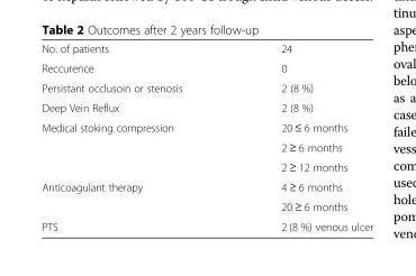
<table><tbody><tr><td>No. of patients</td><td>24</td></tr><tr><td>Reccurence</td><td>0</td></tr><tr><td>Persistant occlusoin or stenosis</td><td>2 (8 %)</td></tr><tr><td>Deep Vein Reflux</td><td>2 (8 %)</td></tr><tr><td rowspan="3">Medical stoking compression</td><td>20 ≤ 6 months</td></tr><tr><td>2 ≥ 6 months</td></tr><tr><td>2 ≥ 12 months</td></tr><tr><td rowspan="2">Anticoagulant therapy</td><td>4 ≥ 6 months</td></tr><tr><td>20 ≥ 6 months</td></tr><tr><td>PTS</td><td>2 (8 %) venous ulcer</td></tr></tbody></table>